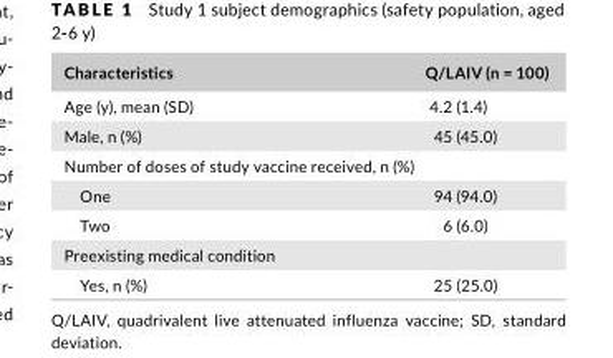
<table><thead><tr><td>Characteristics</td><td>Q/LAIV (n = 100)</td></tr></thead><tbody><tr><td>Age (y), mean (SD)</td><td>4.2 (1.4)</td></tr><tr><td>Male, n (%)</td><td>45 (45.0)</td></tr><tr><td colspan="2">Number of doses of study vaccine received, n (%)</td></tr><tr><td>One</td><td>94 (94.0)</td></tr><tr><td>Two</td><td>6 (6.0)</td></tr><tr><td colspan="2">Preexisting medical condition</td></tr><tr><td>Yes, n (%)</td><td>25 (25.0)</td></tr></tbody></table>